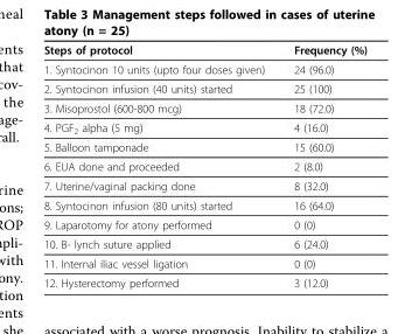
<table><thead><tr><td>Steps of protocol</td><td>Frequency (%)</td></tr></thead><tbody><tr><td>1. Syntocinon 10 units (upto four doses given)</td><td>24 (96.0)</td></tr><tr><td>2. Syntocinon infusion (40 units) started</td><td>25 (100)</td></tr><tr><td>3. Misoprostol (600-800 mcg)</td><td>18 (72.0)</td></tr><tr><td>4. PGF<sub>2</sub> alpha (5 mg)</td><td>4 (16.0)</td></tr><tr><td>5. Balloon tamponade</td><td>15 (60.0)</td></tr><tr><td>6. EUA done and proceeded</td><td>2 (8.0)</td></tr><tr><td>7. Uterine/vaginal packing done</td><td>8 (32.0)</td></tr><tr><td>8. Syntocinon infusion (80 units) started</td><td>16 (64.0)</td></tr><tr><td>9. Laparotomy for atony performed</td><td>0 (0)</td></tr><tr><td>10. B- lynch suture applied</td><td>6 (24.0)</td></tr><tr><td>11. Internal iliac vessel ligation</td><td>0 (0)</td></tr><tr><td>12. Hysterectomy performed</td><td>3 (12.0)</td></tr></tbody></table>